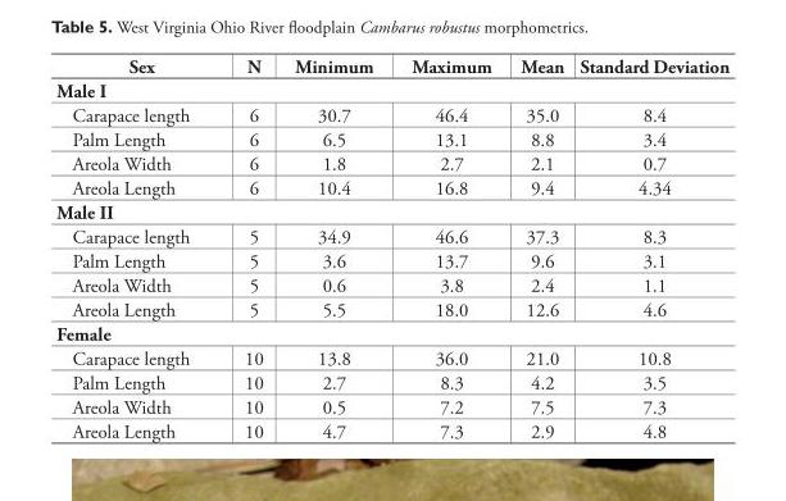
<table><thead><tr><td>Sex</td><td>N</td><td>Minimum</td><td>Maximum</td><td>Mean</td><td>Standard Deviation</td></tr></thead><tbody><tr><td colspan="6">Male I</td></tr><tr><td>Carapace length</td><td>6</td><td>30.7</td><td>46.4</td><td>35.0</td><td>8.4</td></tr><tr><td>Palm Length</td><td>6</td><td>6.5</td><td>13.1</td><td>8.8</td><td>3.4</td></tr><tr><td>Areola Width</td><td>6</td><td>1.8</td><td>2.7</td><td>2.1</td><td>0.7</td></tr><tr><td>Areola Length</td><td>6</td><td>10.4</td><td>16.8</td><td>9.4</td><td>4.34</td></tr><tr><td colspan="6">Male II</td></tr><tr><td>Carapace length</td><td>5</td><td>34.9</td><td>46.6</td><td>37.3</td><td>8.3</td></tr><tr><td>Palm Length</td><td>5</td><td>3.6</td><td>13.7</td><td>9.6</td><td>3.1</td></tr><tr><td>Areola Width</td><td>5</td><td>0.6</td><td>3.8</td><td>2.4</td><td>1.1</td></tr><tr><td>Areola Length</td><td>5</td><td>5.5</td><td>18.0</td><td>12.6</td><td>4.6</td></tr><tr><td colspan="6">Female</td></tr><tr><td>Carapace length</td><td>10</td><td>13.8</td><td>36.0</td><td>21.0</td><td>10.8</td></tr><tr><td>Palm Length</td><td>10</td><td>2.7</td><td>8.3</td><td>4.2</td><td>3.5</td></tr><tr><td>Areola Width</td><td>10</td><td>0.5</td><td>7.2</td><td>7.5</td><td>7.3</td></tr><tr><td>Areola Length</td><td>10</td><td>4.7</td><td>7.3</td><td>2.9</td><td>4.8</td></tr></tbody></table>